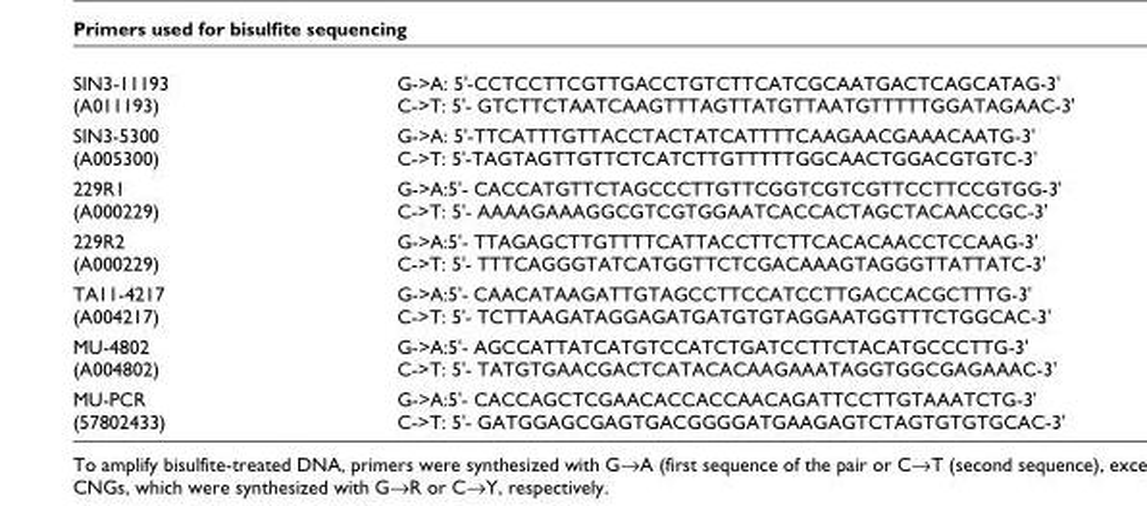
<table><tbody><tr><td>SIN3-11193 (A011193)</td><td>G-&gt;A: 5&#x27;-CCTCCTTCGTTGACCTGTCTTCATCGCAATGACTCAGCATAG-3&#x27; C-&gt;T: 5&#x27;- GTCTTCTAATCAAGTTTAGTTATGTTAATGTTTTTGGATAGAAC-3&#x27;</td></tr><tr><td>SIN3-5300 (A005300)</td><td>G-&gt;A: 5&#x27;-TTCATTTGTTACCTACTATCATTTTCAAGAACGAAACAATG-3&#x27; C-&gt;T: 5&#x27;-TAGTAGTTGTTCTCATCTTGTTTTTGGCAACTGGACGTGTC-3&#x27;</td></tr><tr><td>229R1 (A000229)</td><td>G-&gt;A:5&#x27;- CACCATGTTCTAGCCCTTGTTCGGTCGTCGTTCCTTCCGTGG-3&#x27; C-&gt;T: 5&#x27;- AAAAGAAAGGCGTCGTGGAATCACCACTAGCTACAACCGC-3&#x27;</td></tr><tr><td>229R2 (A000229)</td><td>G-&gt;A:5&#x27;- TTAGAGCTTGTTTTCATTACCTTCTTCACACAACCTCCAAG-3&#x27; C-&gt;T: 5&#x27;- TTTCAGGGTATCATGGTTCTCGACAAAGTAGGGTTATTATC-3&#x27;</td></tr><tr><td>TA11-4217 (A004217)</td><td>G-&gt;A:5&#x27;- CAACATAAGATTGTAGCCTTCCATCCTTGACCACGCTTTG-3&#x27; C-&gt;T: 5&#x27;- TCTTAAGATAGGAGATGATGTGTAGGAATGGTTTCTGGCAC-3&#x27;</td></tr><tr><td>MU-4802 (A004802)</td><td>G-&gt;A:5&#x27;- AGCCATTATCATGTCCATCTGATCCTTCTACATGCCCTTG-3&#x27; C-&gt;T: 5&#x27;- TATGTGAACGACTCATACACAAGAAATAGGTGGCGAGAAAC-3&#x27;</td></tr><tr><td>MU-PCR (57802433)</td><td>G-&gt;A:5&#x27;- CACCAGCTCGAACACCACCAACAGATTCCTTGTAAATCTG-3&#x27; C-&gt;T: 5&#x27;- GATGGAGCGAGTGACGGGGATGAAGAGTCTAGTGTGTGCAC-3&#x27;</td></tr></tbody></table>